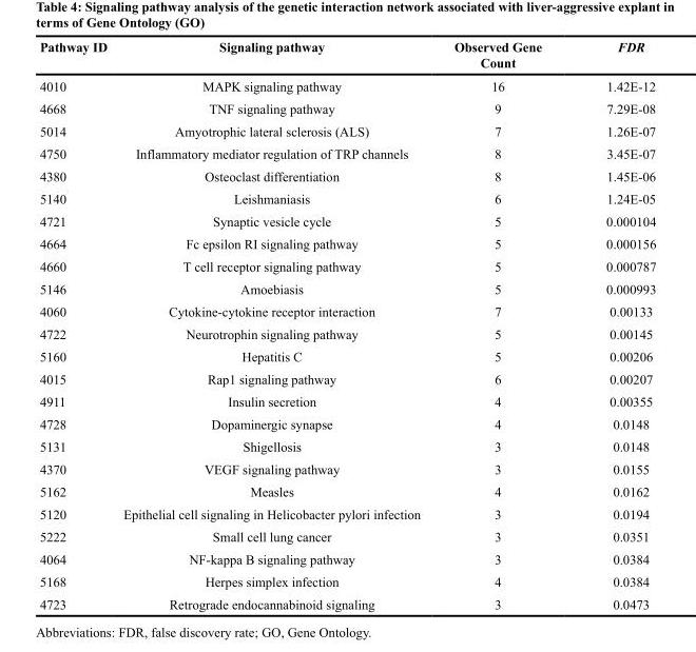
<table><thead><tr><td>Pathway ID</td><td>Signaling pathway</td><td>Observed Gene Count</td><td>FDR</td></tr></thead><tbody><tr><td>4010</td><td>MAPK signaling pathway</td><td>16</td><td>1.42E-12</td></tr><tr><td>4668</td><td>TNF signaling pathway</td><td>9</td><td>7.29E-08</td></tr><tr><td>5014</td><td>Amyotrophic lateral sclerosis (ALS)</td><td>7</td><td>1.26E-07</td></tr><tr><td>4750</td><td>Inflammatory mediator regulation of TRP channels</td><td>8</td><td>3.45E-07</td></tr><tr><td>4380</td><td>Osteoclast differentiation</td><td>8</td><td>1.45E-06</td></tr><tr><td>5140</td><td>Leishmaniasis</td><td>6</td><td>1.24E-05</td></tr><tr><td>4721</td><td>Synaptic vesicle cycle</td><td>5</td><td>0.000104</td></tr><tr><td>4664</td><td>Fc epsilon RI signaling pathway</td><td>5</td><td>0.000156</td></tr><tr><td>4660</td><td>T cell receptor signaling pathway</td><td>5</td><td>0.000787</td></tr><tr><td>5146</td><td>Amoebiasis</td><td>5</td><td>0.000993</td></tr><tr><td>4060</td><td>Cytokine-cytokine receptor interaction</td><td>7</td><td>0.00133</td></tr><tr><td>4722</td><td>Neurotrophin signaling pathway</td><td>5</td><td>0.00145</td></tr><tr><td>5160</td><td>Hepatitis C</td><td>5</td><td>0.00206</td></tr><tr><td>4015</td><td>Rap1 signaling pathway</td><td>6</td><td>0.00207</td></tr><tr><td>4911</td><td>Insulin secretion</td><td>4</td><td>0.00355</td></tr><tr><td>4728</td><td>Dopaminergic synapse</td><td>4</td><td>0.0148</td></tr><tr><td>5131</td><td>Shigellosis</td><td>3</td><td>0.0148</td></tr><tr><td>4370</td><td>VEGF signaling pathway</td><td>3</td><td>0.0155</td></tr><tr><td>5162</td><td>Measles</td><td>4</td><td>0.0162</td></tr><tr><td>5120</td><td>Epithelial cell signaling in Helicobacter pylori infection</td><td>3</td><td>0.0194</td></tr><tr><td>5222</td><td>Small cell lung cancer</td><td>3</td><td>0.0351</td></tr><tr><td>4064</td><td>NF-kappa B signaling pathway</td><td>3</td><td>0.0384</td></tr><tr><td>5168</td><td>Herpes simplex infection</td><td>4</td><td>0.0384</td></tr><tr><td>4723</td><td>Retrograde endocannabinoid signaling</td><td>3</td><td>0.0473</td></tr></tbody></table>